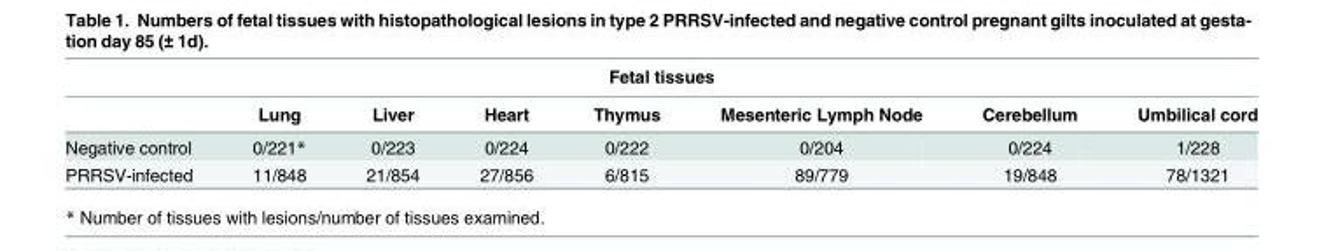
<table><thead><tr><td colspan="8">Fetal tissues</td></tr><tr><td></td><td>Lung</td><td>Liver</td><td>Heart</td><td>Thymus</td><td>Mesenteric Lymph Node</td><td>Cerebellum</td><td>Umbilical cord</td></tr></thead><tbody><tr><td>Negative control</td><td>0/221*</td><td>0/223</td><td>0/224</td><td>0/222</td><td>0/204</td><td>0/224</td><td>1/228</td></tr><tr><td>PRRSV-infected</td><td>11/848</td><td>21/854</td><td>27/856</td><td>6/815</td><td>89/779</td><td>19/848</td><td>78/1321</td></tr></tbody></table>